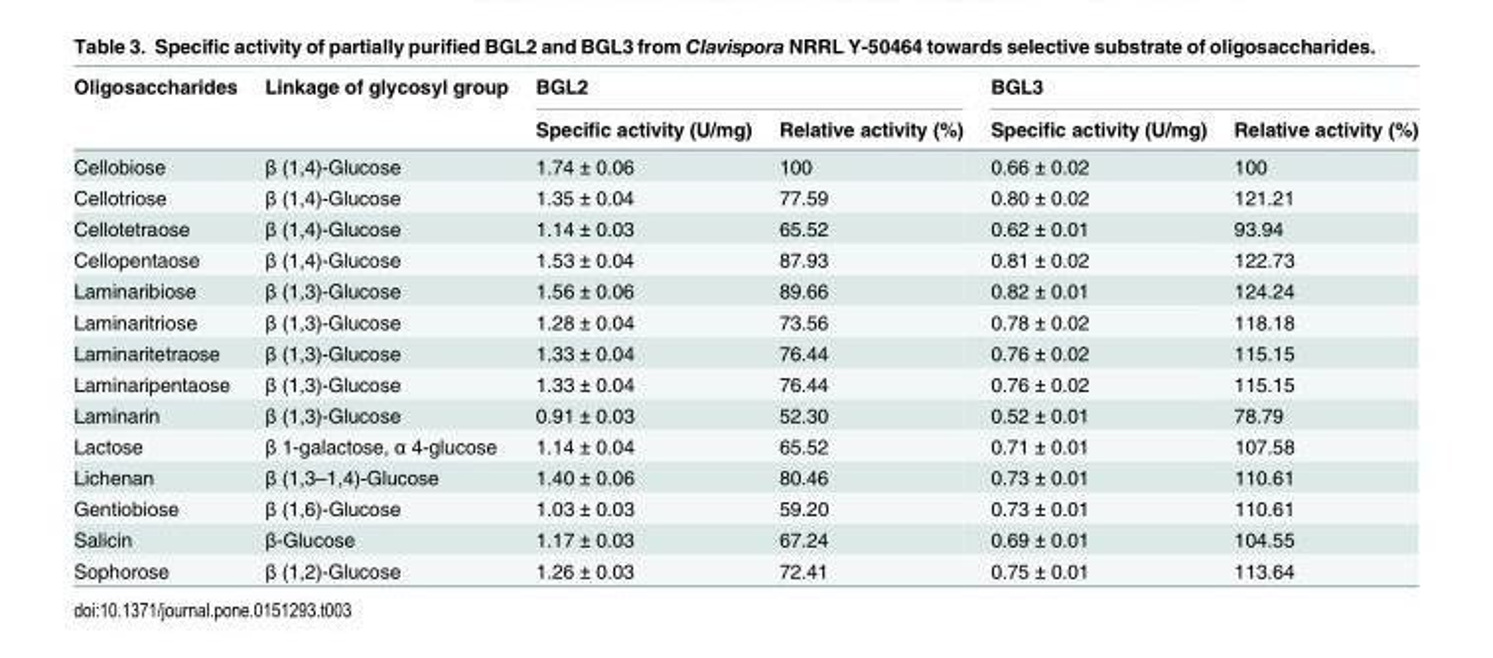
<table><thead><tr><td rowspan="2">Oligosaccharides</td><td rowspan="2">Linkage of glycosyl group</td><td colspan="2">BGL2</td><td colspan="2">BGL3</td></tr><tr><td>Specific activity (U/mg)</td><td>Relative activity (%)</td><td>Specific activity (U/mg)</td><td>Relative activity (%)</td></tr></thead><tbody><tr><td>Cellobiose</td><td>β (1,4)-Glucose</td><td>1.74 ± 0.06</td><td>100</td><td>0.66 ± 0.02</td><td>100</td></tr><tr><td>Cellotriose</td><td>β (1,4)-Glucose</td><td>1.35 ± 0.04</td><td>77.59</td><td>0.80 ± 0.02</td><td>121.21</td></tr><tr><td>Cellotetraose</td><td>β (1,4)-Glucose</td><td>1.14 ± 0.03</td><td>65.52</td><td>0.62 ± 0.01</td><td>93.94</td></tr><tr><td>Cellopentaose</td><td>β (1,4)-Glucose</td><td>1.53 ± 0.04</td><td>87.93</td><td>0.81 ± 0.02</td><td>122.73</td></tr><tr><td>Laminaribiose</td><td>β (1,3)-Glucose</td><td>1.56 ± 0.06</td><td>89.66</td><td>0.82 ± 0.01</td><td>124.24</td></tr><tr><td>Laminaritriose</td><td>β (1,3)-Glucose</td><td>1.28 ± 0.04</td><td>73.56</td><td>0.78 ± 0.02</td><td>118.18</td></tr><tr><td>Laminaritetraose</td><td>β (1,3)-Glucose</td><td>1.33 ± 0.04</td><td>76.44</td><td>0.76 ± 0.02</td><td>115.15</td></tr><tr><td>Laminaripentaose</td><td>β (1,3)-Glucose</td><td>1.33 ± 0.04</td><td>76.44</td><td>0.76 ± 0.02</td><td>115.15</td></tr><tr><td>Laminarin</td><td>β (1,3)-Glucose</td><td>0.91 ± 0.03</td><td>52.30</td><td>0.52 ± 0.01</td><td>78.79</td></tr><tr><td>Lactose</td><td>β 1-galactose, α 4-glucose</td><td>1.14 ± 0.04</td><td>65.52</td><td>0.71 ± 0.01</td><td>107.58</td></tr><tr><td>Lichenan</td><td>β (1,3–1,4)-Glucose</td><td>1.40 ± 0.06</td><td>80.46</td><td>0.73 ± 0.01</td><td>110.61</td></tr><tr><td>Gentiobiose</td><td>β (1,6)-Glucose</td><td>1.03 ± 0.03</td><td>59.20</td><td>0.73 ± 0.01</td><td>110.61</td></tr><tr><td>Salicin</td><td>β-Glucose</td><td>1.17 ± 0.03</td><td>67.24</td><td>0.69 ± 0.01</td><td>104.55</td></tr><tr><td>Sophorose</td><td>β (1,2)-Glucose</td><td>1.26 ± 0.03</td><td>72.41</td><td>0.75 ± 0.01</td><td>113.64</td></tr></tbody></table>